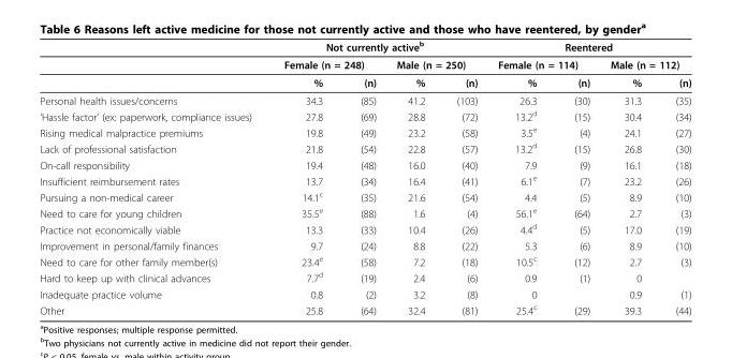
<table><thead><tr><td rowspan="3"></td><td colspan="4">Not currently active<sup>b</sup></td><td colspan="4">Reentered</td></tr><tr><td colspan="2">Female (n = 248)</td><td colspan="2">Male (n = 250)</td><td colspan="2">Female (n = 114)</td><td colspan="2">Male (n = 112)</td></tr><tr><td>%</td><td>(n)</td><td>%</td><td>(n)</td><td>%</td><td>(n)</td><td>%</td><td>(n)</td></tr></thead><tbody><tr><td>Personal health issues/concerns</td><td>34.3</td><td>(85)</td><td>41.2</td><td>(103)</td><td>26.3</td><td>(30)</td><td>31.3</td><td>(35)</td></tr><tr><td>’Hassle factor’ (ex: paperwork, compliance issues)</td><td>27.8</td><td>(69)</td><td>28.8</td><td>(72)</td><td>13.2<sup>d</sup></td><td>(15)</td><td>30.4</td><td>(34)</td></tr><tr><td>Rising medical malpractice premiums</td><td>19.8</td><td>(49)</td><td>23.2</td><td>(58)</td><td>3.5<sup>e</sup></td><td>(4)</td><td>24.1</td><td>(27)</td></tr><tr><td>Lack of professional satisfaction</td><td>21.8</td><td>(54)</td><td>22.8</td><td>(57)</td><td>13.2<sup>d</sup></td><td>(15)</td><td>26.8</td><td>(30)</td></tr><tr><td>On-call responsibility</td><td>19.4</td><td>(48)</td><td>16.0</td><td>(40)</td><td>7.9</td><td>(9)</td><td>16.1</td><td>(18)</td></tr><tr><td>Insufficient reimbursement rates</td><td>13.7</td><td>(34)</td><td>16.4</td><td>(41)</td><td>6.1<sup>e</sup></td><td>(7)</td><td>23.2</td><td>(26)</td></tr><tr><td>Pursuing a non-medical career</td><td>14.1<sup>c</sup></td><td>(35)</td><td>21.6</td><td>(54)</td><td>4.4</td><td>(5)</td><td>8.9</td><td>(10)</td></tr><tr><td>Need to care for young children</td><td>35.5<sup>e</sup></td><td>(88)</td><td>1.6</td><td>(4)</td><td>56.1<sup>e</sup></td><td>(64)</td><td>2.7</td><td>(3)</td></tr><tr><td>Practice not economically viable</td><td>13.3</td><td>(33)</td><td>10.4</td><td>(26)</td><td>4.4<sup>d</sup></td><td>(5)</td><td>17.0</td><td>(19)</td></tr><tr><td>Improvement in personal/family finances</td><td>9.7</td><td>(24)</td><td>8.8</td><td>(22)</td><td>5.3</td><td>(6)</td><td>8.9</td><td>(10)</td></tr><tr><td>Need to care for other family member(s)</td><td>23.4<sup>e</sup></td><td>(58)</td><td>7.2</td><td>(18)</td><td>10.5<sup>c</sup></td><td>(12)</td><td>2.7</td><td>(3)</td></tr><tr><td>Hard to keep up with clinical advances</td><td>7.7<sup>d</sup></td><td>(19)</td><td>2.4</td><td>(6)</td><td>0.9</td><td>(1)</td><td>0</td><td></td></tr><tr><td>Inadequate practice volume</td><td>0.8</td><td>(2)</td><td>3.2</td><td>(8)</td><td>0</td><td></td><td>0.9</td><td>(1)</td></tr><tr><td>Other</td><td>25.8</td><td>(64)</td><td>32.4</td><td>(81)</td><td>25.4<sup>c</sup></td><td>(29)</td><td>39.3</td><td>(44)</td></tr></tbody></table>